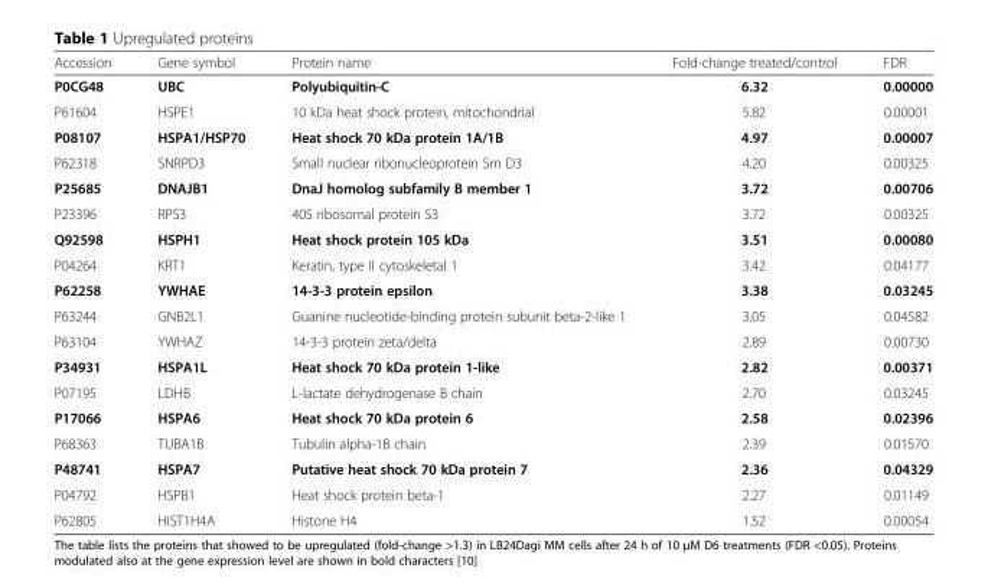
<table><thead><tr><td>Accession</td><td>Gene symbol</td><td>Protein name</td><td>Fold-change treated/control</td><td>FDR</td></tr></thead><tbody><tr><td>P0CG48</td><td>UBC</td><td>Polyubiquitin-C</td><td>6.32</td><td>0.00000</td></tr><tr><td>P61604</td><td>HSPE1</td><td>10 kDa heat shock protein, mitochondrial</td><td>5.82</td><td>0.00001</td></tr><tr><td>P08107</td><td>HSPA1/HSP70</td><td>Heat shock 70 kDa protein 1A/1B</td><td>4.97</td><td>0.00007</td></tr><tr><td>P62318</td><td>SNRPD3</td><td>Small nuclear ribonucleoprotein Sm D3</td><td>4.20</td><td>0.00325</td></tr><tr><td>P25685</td><td>DNAJB1</td><td>DnaJ homolog subfamily B member 1</td><td>3.72</td><td>0.00706</td></tr><tr><td>P23396</td><td>RPS3</td><td>40S ribosomal protein S3</td><td>3.72</td><td>0.00325</td></tr><tr><td>Q92598</td><td>HSPH1</td><td>Heat shock protein 105 kDa</td><td>3.51</td><td>0.00080</td></tr><tr><td>P04264</td><td>KRT1</td><td>Keratin, type II cytoskeletal 1</td><td>3.42</td><td>0.04177</td></tr><tr><td>P62258</td><td>YWHAE</td><td>14-3-3 protein epsilon</td><td>3.38</td><td>0.03245</td></tr><tr><td>P63244</td><td>GNB2L1</td><td>Guanine nucleotide-binding protein subunit beta-2-like 1</td><td>3.05</td><td>0.04582</td></tr><tr><td>P63104</td><td>YWHAZ</td><td>14-3-3 protein zeta/delta</td><td>2.89</td><td>0.00730</td></tr><tr><td>P34931</td><td>HSPA1L</td><td>Heat shock 70 kDa protein 1-like</td><td>2.82</td><td>0.00371</td></tr><tr><td>P07195</td><td>LDHB</td><td>L-lactate dehydrogenase B chain</td><td>2.70</td><td>0.03245</td></tr><tr><td>P17066</td><td>HSPA6</td><td>Heat shock 70 kDa protein 6</td><td>2.58</td><td>0.02396</td></tr><tr><td>P68363</td><td>TUBA1B</td><td>Tubulin alpha-1B chain</td><td>2.39</td><td>0.01570</td></tr><tr><td>P48741</td><td>HSPA7</td><td>Putative heat shock 70 kDa protein 7</td><td>2.36</td><td>0.04329</td></tr><tr><td>P04792</td><td>HSPB1</td><td>Heat shock protein beta-1</td><td>2.27</td><td>0.01149</td></tr><tr><td>P62805</td><td>HIST1H4A</td><td>Histone H4</td><td>1.52</td><td>0.00054</td></tr></tbody></table>